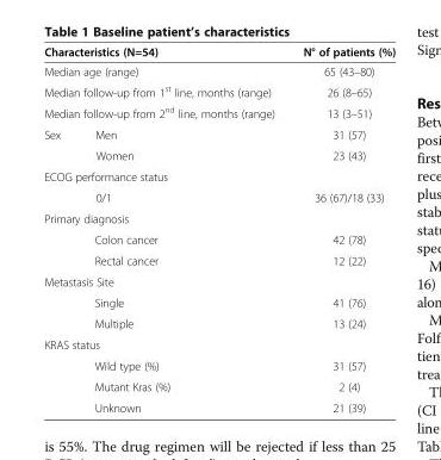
<table><thead><tr><td>Characteristics (N=54)</td><td>N° of patients (%)</td></tr></thead><tbody><tr><td>Median age (range)</td><td>65 (43–80)</td></tr><tr><td>Median follow-up from 1<sup>st</sup> line, months (range)</td><td>26 (8–65)</td></tr><tr><td>Median follow-up from 2<sup>nd</sup> line, months (range)</td><td>13 (3–51)</td></tr><tr><td>Sex Men</td><td>31 (57)</td></tr><tr><td>Women</td><td>23 (43)</td></tr><tr><td colspan="2">ECOG performance status</td></tr><tr><td>0/1</td><td>36 (67)/18 (33)</td></tr><tr><td colspan="2">Primary diagnosis</td></tr><tr><td>Colon cancer</td><td>42 (78)</td></tr><tr><td>Rectal cancer</td><td>12 (22)</td></tr><tr><td colspan="2">Metastasis Site</td></tr><tr><td>Single</td><td>41 (76)</td></tr><tr><td>Multiple</td><td>13 (24)</td></tr><tr><td colspan="2">KRAS status</td></tr><tr><td>Wild type (%)</td><td>31 (57)</td></tr><tr><td>Mutant Kras (%)</td><td>2 (4)</td></tr><tr><td>Unknown</td><td>21 (39)</td></tr></tbody></table>